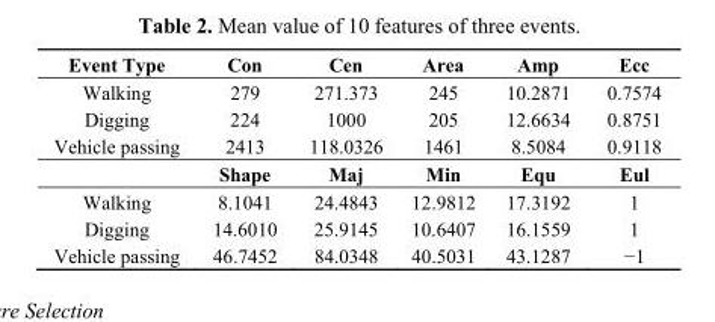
<table><thead><tr><td>Event Type</td><td>Con</td><td>Cen</td><td>Area</td><td>Amp</td><td>Ecc</td></tr></thead><tbody><tr><td>Walking</td><td>279</td><td>271.373</td><td>245</td><td>10.2871</td><td>0.7574</td></tr><tr><td>Digging</td><td>224</td><td>1000</td><td>205</td><td>12.6634</td><td>0.8751</td></tr><tr><td rowspan="2">Vehicle passing</td><td>2413</td><td>118.0326</td><td>1461</td><td>8.5084</td><td>0.9118</td></tr><tr><td>Shape</td><td>Maj</td><td>Min</td><td>Equ</td><td>Eul</td></tr><tr><td>Walking</td><td>8.1041</td><td>24.4843</td><td>12.9812</td><td>17.3192</td><td>1</td></tr><tr><td>Digging</td><td>14.6010</td><td>25.9145</td><td>10.6407</td><td>16.1559</td><td>1</td></tr><tr><td>Vehicle passing</td><td>46.7452</td><td>84.0348</td><td>40.5031</td><td>43.1287</td><td>−1</td></tr></tbody></table>